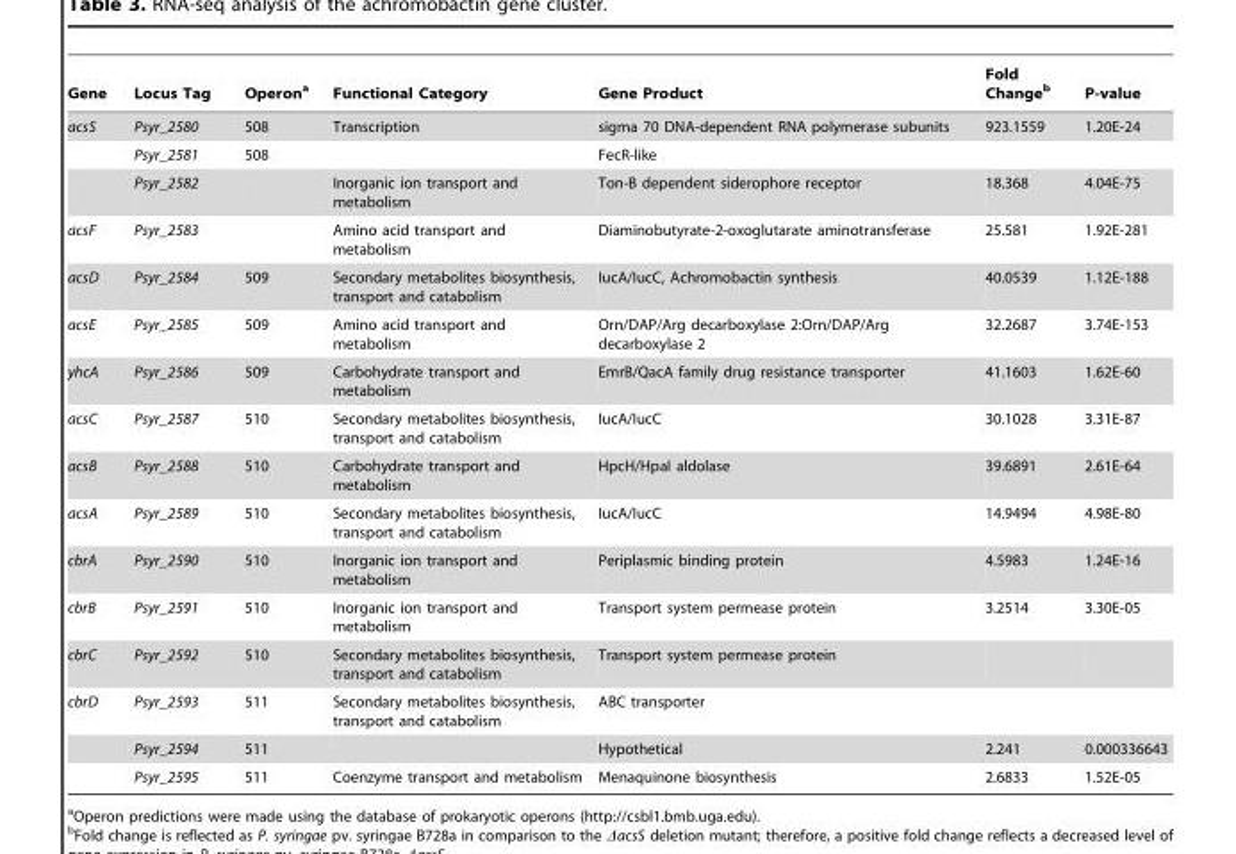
<table><thead><tr><td>Gene</td><td>Locus Tag</td><td>Operon<sup>a</sup></td><td>Functional Category</td><td>Gene Product</td><td>Fold Change<sup>b</sup></td><td>P-value</td></tr></thead><tbody><tr><td rowspan="3">acsS</td><td>Psyr_2580</td><td>508</td><td>Transcription</td><td>sigma 70 DNA-dependent RNA polymerase subunits</td><td>923.1559</td><td>1.20E-24</td></tr><tr><td>Psyr_2581</td><td>508</td><td></td><td>FecR-like</td><td></td><td></td></tr><tr><td>Psyr_2582</td><td></td><td>Inorganic ion transport and metabolism</td><td>Ton-B dependent siderophore receptor</td><td>18.368</td><td>4.04E-75</td></tr><tr><td>acsF</td><td>Psyr_2583</td><td></td><td>Amino acid transport and metabolism</td><td>Diaminobutyrate-2-oxoglutarate aminotransferase</td><td>25.581</td><td>1.92E-281</td></tr><tr><td>acsD</td><td>Psyr_2584</td><td>509</td><td>Secondary metabolites biosynthesis, transport and catabolism</td><td>IucA/IucC, Achromobactin synthesis</td><td>40.0539</td><td>1.12E-188</td></tr><tr><td>acsE</td><td>Psyr_2585</td><td>509</td><td>Amino acid transport and metabolism</td><td>Orn/DAP/Arg decarboxylase 2:Orn/DAP/Arg decarboxylase 2</td><td>32.2687</td><td>3.74E-153</td></tr><tr><td>yhcA</td><td>Psyr_2586</td><td>509</td><td>Carbohydrate transport and metabolism</td><td>EmrB/QacA family drug resistance transporter</td><td>41.1603</td><td>1.62E-60</td></tr><tr><td>acsC</td><td>Psyr_2587</td><td>510</td><td>Secondary metabolites biosynthesis, transport and catabolism</td><td>IucA/IucC</td><td>30.1028</td><td>3.31E-87</td></tr><tr><td>acsB</td><td>Psyr_2588</td><td>510</td><td>Carbohydrate transport and metabolism</td><td>HpcH/HpaI aldolase</td><td>39.6891</td><td>2.61E-64</td></tr><tr><td>acsA</td><td>Psyr_2589</td><td>510</td><td>Secondary metabolites biosynthesis, transport and catabolism</td><td>IucA/IucC</td><td>14.9494</td><td>4.98E-80</td></tr><tr><td>cbrA</td><td>Psyr_2590</td><td>510</td><td>Inorganic ion transport and metabolism</td><td>Periplasmic binding protein</td><td>4.5983</td><td>1.24E-16</td></tr><tr><td>cbrB</td><td>Psyr_2591</td><td>510</td><td>Inorganic ion transport and metabolism</td><td>Transport system permease protein</td><td>3.2514</td><td>3.30E-05</td></tr><tr><td>cbrC</td><td>Psyr_2592</td><td>510</td><td>Secondary metabolites biosynthesis, transport and catabolism</td><td>Transport system permease protein</td><td></td><td></td></tr><tr><td rowspan="3">cbrD</td><td>Psyr_2593</td><td>511</td><td>Secondary metabolites biosynthesis, transport and catabolism</td><td>ABC transporter</td><td></td><td></td></tr><tr><td>Psyr_2594</td><td>511</td><td></td><td>Hypothetical</td><td>2.241</td><td>0.000336643</td></tr><tr><td>Psyr_2595</td><td>511</td><td>Coenzyme transport and metabolism</td><td>Menaquinone biosynthesis</td><td>2.6833</td><td>1.52E-05</td></tr></tbody></table>